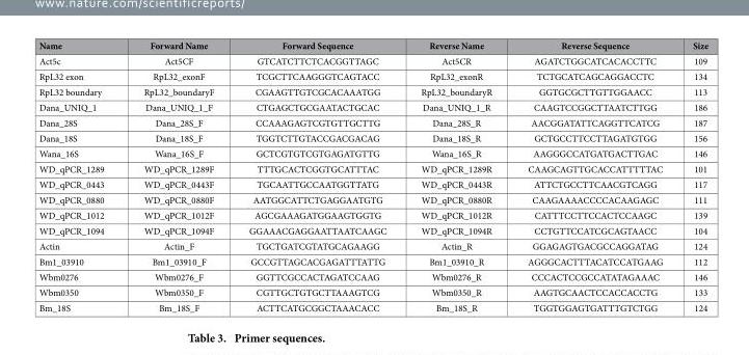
<table><thead><tr><td>Name</td><td>Forward Name</td><td>Forward Sequence</td><td>Reverse Name</td><td>Reverse Sequence</td><td>Size</td></tr></thead><tbody><tr><td>Act5c</td><td>Act5CF</td><td>GTCATCTTCTCACGGTTAGC</td><td>Act5CR</td><td>AGATCTGGCATCACACCTTC</td><td>109</td></tr><tr><td>RpL32 exon</td><td>RpL32_exonF</td><td>TCGCTTCAAGGGTCAGTACC</td><td>RpL32_exonR</td><td>TCTGCATCAGCAGGACCTC</td><td>134</td></tr><tr><td>RpL32 boundary</td><td>RpL32_boundaryF</td><td>CGAAGTTGTCGCACAAATGG</td><td>RpL32_boundaryR</td><td>GGTGCGCTTGTTGGAACC</td><td>113</td></tr><tr><td>Dana_UNIQ_1</td><td>Dana_UNIQ_1_F</td><td>CTGAGCTGCGAATACTGCAC</td><td>Dana_UNIQ_1_R</td><td>CAAGTCCGGCTTAATCTTGG</td><td>186</td></tr><tr><td>Dana_28S</td><td>Dana_28S_F</td><td>CCAAAGAGTCGTGTTGCTTG</td><td>Dana_28S_R</td><td>AACGGATATTCAGGTTCATCG</td><td>187</td></tr><tr><td>Dana_18S</td><td>Dana_18S_F</td><td>TGGTCTTGTACCGACGACAG</td><td>Dana_18S_R</td><td>GCTGCCTTCCTTAGATGTGG</td><td>156</td></tr><tr><td>Wana_16S</td><td>Wana_16S_F</td><td>GCTCGTGTCGTGAGATGTTG</td><td>Wana_16S_R</td><td>AAGGGCCATGATGACTTGAC</td><td>146</td></tr><tr><td>WD_qPCR_1289</td><td>WD_qPCR_1289F</td><td>TTTGCACTCGGTGCATTTAC</td><td>WD_qPCR_1289R</td><td>CAAGCAGTTGCACCATTTTTAC</td><td>101</td></tr><tr><td>WD_qPCR_0443</td><td>WD_qPCR_0443F</td><td>TGCAATTGCCAATGGTTATG</td><td>WD_qPCR_0443R</td><td>ATTCTGCCTTCAACGTCAGG</td><td>117</td></tr><tr><td>WD_qPCR_0880</td><td>WD_qPCR_0880F</td><td>AATGGCATTCTGAGGAATGTG</td><td>WD_qPCR_0880R</td><td>CAAGAAAACCCCACAAGAGC</td><td>111</td></tr><tr><td>WD_qPCR_1012</td><td>WD_qPCR_1012F</td><td>AGCGAAAGATGGAAGTGGTG</td><td>WD_qPCR_1012R</td><td>CATTTCCTTCCACTCCAAGC</td><td>139</td></tr><tr><td>WD_qPCR_1094</td><td>WD_qPCR_1094F</td><td>GGAAACGAGGAATTAATCAAGC</td><td>WD_qPCR_1094R</td><td>CCTGTTCCATCGCAGTAACC</td><td>104</td></tr><tr><td>Actin</td><td>Actin_F</td><td>TGCTGATCGTATGCAGAAGG</td><td>Actin_R</td><td>GGAGAGTGACGCCAGGATAG</td><td>124</td></tr><tr><td>Bm1_03910</td><td>Bm1_03910_F</td><td>GCCGTTAGCACGAGATTTATTG</td><td>Bm1_03910_R</td><td>AGGGCACTTTACATCCATGAAG</td><td>112</td></tr><tr><td>Wbm0276</td><td>Wbm0276_F</td><td>GGTTCGCCACTAGATCCAAG</td><td>Wbm0276_R</td><td>CCCACTCCGCCATATAGAAAC</td><td>146</td></tr><tr><td>Wbm0350</td><td>Wbm0350_F</td><td>CGTTGCTGTGCTTAAAGTCG</td><td>Wbm0350_R</td><td>AAGTGCAACTCCACCACCTG</td><td>133</td></tr><tr><td>Bm_18S</td><td>Bm_18S_F</td><td>ACTTCATGCGGCTAAACACC</td><td>Bm_18S_R</td><td>TGGTGGAGTGATTTGTCTGG</td><td>124</td></tr></tbody></table>